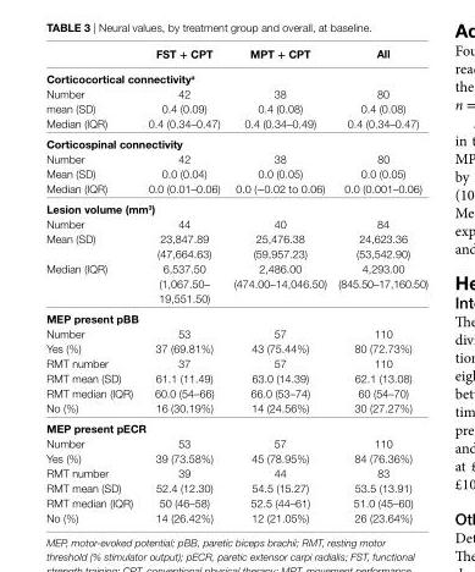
<table><thead><tr><td></td><td>FsT + cPT</td><td>MPT + cPT</td><td>all</td></tr></thead><tbody><tr><td colspan="4">corticocortical connectivity<sup>a</sup></td></tr><tr><td>Number</td><td>42</td><td>38</td><td>80</td></tr><tr><td>mean (SD)</td><td>0.4 (0.09)</td><td>0.4 (0.08)</td><td>0.4 (0.08)</td></tr><tr><td>Median (IQR)</td><td>0.4 (0.34–0.47)</td><td>0.4 (0.34–0.49)</td><td>0.4 (0.34–0.47)</td></tr><tr><td colspan="4">corticospinal connectivity</td></tr><tr><td>Number</td><td>42</td><td>38</td><td>80</td></tr><tr><td>Mean (SD)</td><td>0.0 (0.04)</td><td>0.0 (0.05)</td><td>0.0 (0.05)</td></tr><tr><td>Median (IQR)</td><td>0.0 (0.01–0.06)</td><td>0.0 (−0.02 to 0.06)</td><td>0.0 (0.001–0.06)</td></tr><tr><td colspan="4">lesion volume (mm<sup>3</sup>)</td></tr><tr><td>Number</td><td>44</td><td>40</td><td>84</td></tr><tr><td>Mean (SD)</td><td>23,847.89 (47,664.63)</td><td>25,476.38 (59,957.23)</td><td>24,623.36 (53,542.90)</td></tr><tr><td>Median (IQR)</td><td>6,537.50 (1,067.50– 19,551.50)</td><td>2,486.00 (474.00–14,046.50)</td><td>4,293.00 (845.50–17,160.50)</td></tr><tr><td colspan="4">MeP present pBB</td></tr><tr><td>Number</td><td>53</td><td>57</td><td>110</td></tr><tr><td>Yes (%)</td><td>37 (69.81%)</td><td>43 (75.44%)</td><td>80 (72.73%)</td></tr><tr><td>RMT number</td><td>37</td><td>57</td><td>110</td></tr><tr><td>RMT mean (SD)</td><td>61.1 (11.49)</td><td>63.0 (14.39)</td><td>62.1 (13.08)</td></tr><tr><td>RMT median (IQR)</td><td>60.0 (54–66)</td><td>66.0 (53–74)</td><td>60 (54–70)</td></tr><tr><td>No (%)</td><td>16 (30.19%)</td><td>14 (24.56%)</td><td>30 (27.27%)</td></tr><tr><td colspan="4">MeP present pecr</td></tr><tr><td>Number</td><td>53</td><td>57</td><td>110</td></tr><tr><td>Yes (%)</td><td>39 (73.58%)</td><td>45 (78.95%)</td><td>84 (76.36%)</td></tr><tr><td>RMT number</td><td>39</td><td>44</td><td>83</td></tr><tr><td>RMT mean (SD)</td><td>52.4 (12.30)</td><td>54.5 (15.27)</td><td>53.5 (13.91)</td></tr><tr><td>RMT median (IQR)</td><td>50 (46–58)</td><td>52.5 (44–61)</td><td>51.0 (45–60)</td></tr><tr><td>No (%)</td><td>14 (26.42%)</td><td>12 (21.05%)</td><td>26 (23.64%)</td></tr></tbody></table>